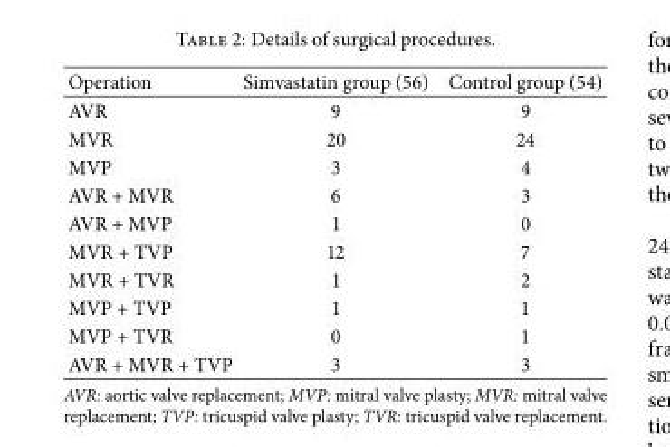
<table><tbody><tr><td>Operation</td><td>Simvastatin group (56)</td><td>Control group (54)</td></tr><tr><td>AVR</td><td>9</td><td>9</td></tr><tr><td>MVR</td><td>20</td><td>24</td></tr><tr><td>MVP</td><td>3</td><td>4</td></tr><tr><td>AVR + MVR</td><td>6</td><td>3</td></tr><tr><td>AVR + MVP</td><td>1</td><td>0</td></tr><tr><td>MVR + TVP</td><td>12</td><td>7</td></tr><tr><td>MVR + TVR</td><td>1</td><td>2</td></tr><tr><td>MVP + TVP</td><td>1</td><td>1</td></tr><tr><td>MVP + TVR</td><td>0</td><td>1</td></tr><tr><td>AVR + MVR + TVP</td><td>3</td><td>3</td></tr></tbody></table>